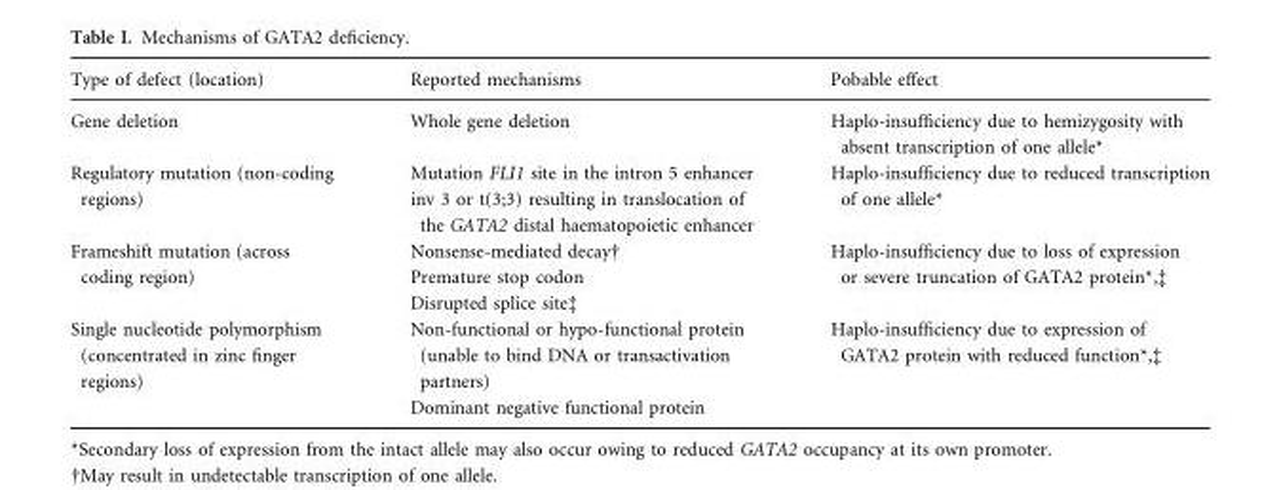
<table><thead><tr><td>Type of defect (location)</td><td>Reported mechanisms</td><td>Pobable effect</td></tr></thead><tbody><tr><td>Gene deletion</td><td>Whole gene deletion</td><td>Haplo-insufficiency due to hemizygosity with absent transcription of one allele*</td></tr><tr><td>Regulatory mutation (non-coding regions)</td><td>Mutation FLI1 site in the intron 5 enhancer inv 3 or t(3;3) resulting in translocation of the GATA2 distal haematopoietic enhancer</td><td>Haplo-insufficiency due to reduced transcription of one allele*</td></tr><tr><td>Frameshift mutation (across coding region)</td><td>Nonsense-mediated decay† Premature stop codon Disrupted splice site‡</td><td>Haplo-insufficiency due to loss of expression or severe truncation of GATA2 protein*,‡</td></tr><tr><td>Single nucleotide polymorphism (concentrated in zinc finger regions)</td><td>Non-functional or hypo-functional protein (unable to bind DNA or transactivation partners) Dominant negative functional protein</td><td>Haplo-insufficiency due to expression of GATA2 protein with reduced function*,‡</td></tr></tbody></table>